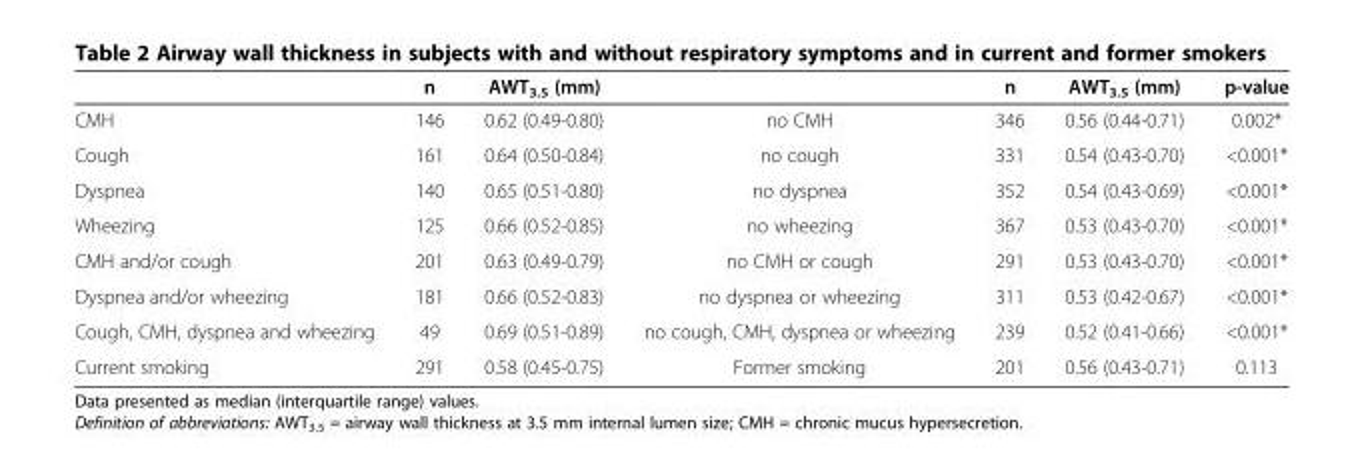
<table><thead><tr><td></td><td>n</td><td>AWT<sub>3.5</sub> (mm)</td><td></td><td>n</td><td>AWT<sub>3.5</sub> (mm)</td><td>p-value</td></tr></thead><tbody><tr><td>CMH</td><td>146</td><td>0.62 (0.49-0.80)</td><td>no CMH</td><td>346</td><td>0.56 (0.44-0.71)</td><td>0.002*</td></tr><tr><td>Cough</td><td>161</td><td>0.64 (0.50-0.84)</td><td>no cough</td><td>331</td><td>0.54 (0.43-0.70)</td><td>&lt;0.001*</td></tr><tr><td>Dyspnea</td><td>140</td><td>0.65 (0.51-0.80)</td><td>no dyspnea</td><td>352</td><td>0.54 (0.43-0.69)</td><td>&lt;0.001*</td></tr><tr><td>Wheezing</td><td>125</td><td>0.66 (0.52-0.85)</td><td>no wheezing</td><td>367</td><td>0.53 (0.43-0.70)</td><td>&lt;0.001*</td></tr><tr><td>CMH and/or cough</td><td>201</td><td>0.63 (0.49-0.79)</td><td>no CMH or cough</td><td>291</td><td>0.53 (0.43-0.70)</td><td>&lt;0.001*</td></tr><tr><td>Dyspnea and/or wheezing</td><td>181</td><td>0.66 (0.52-0.83)</td><td>no dyspnea or wheezing</td><td>311</td><td>0.53 (0.42-0.67)</td><td>&lt;0.001*</td></tr><tr><td>Cough, CMH, dyspnea and wheezing</td><td>49</td><td>0.69 (0.51-0.89)</td><td>no cough, CMH, dyspnea or wheezing</td><td>239</td><td>0.52 (0.41-0.66)</td><td>&lt;0.001*</td></tr><tr><td>Current smoking</td><td>291</td><td>0.58 (0.45-0.75)</td><td>Former smoking</td><td>201</td><td>0.56 (0.43-0.71)</td><td>0.113</td></tr></tbody></table>